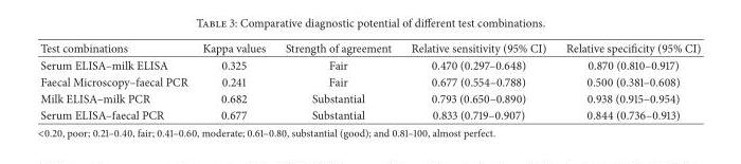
<table><thead><tr><td>Test combinations</td><td>Kappa values</td><td>Strength of agreement</td><td>Relative sensitivity (95% CI)</td><td>Relative specificity (95% CI)</td></tr></thead><tbody><tr><td>Serum ELISA–milk ELISA</td><td>0.325</td><td>Fair</td><td>0.470 (0.297–0.648)</td><td>0.870 (0.810–0.917)</td></tr><tr><td>Faecal Microscopy–faecal PCR</td><td>0.241</td><td>Fair</td><td>0.677 (0.554–0.788)</td><td>0.500 (0.381–0.608)</td></tr><tr><td>Milk ELISA–milk PCR</td><td>0.682</td><td>Substantial</td><td>0.793 (0.650–0.890)</td><td>0.938 (0.915–0.954)</td></tr><tr><td>Serum ELISA–faecal PCR</td><td>0.677</td><td>Substantial</td><td>0.833 (0.719–0.907)</td><td>0.844 (0.736–0.913)</td></tr></tbody></table>